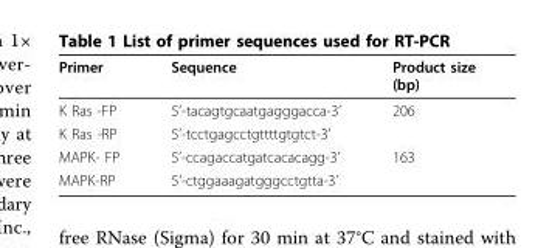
<table><thead><tr><td>Primer</td><td>Sequence</td><td>Product size (bp)</td></tr></thead><tbody><tr><td>K Ras -FP</td><td>5’-tacagtgcaatgagggacca-3’</td><td>206</td></tr><tr><td>K Ras -RP</td><td>5’-tcctgagcctgttttgtgtct-3’</td><td></td></tr><tr><td>MAPK- FP</td><td>5’-ccagaccatgatcacacagg-3’</td><td>163</td></tr><tr><td>MAPK-RP</td><td>5’-ctggaaagatgggcctgtta-3’</td><td></td></tr></tbody></table>